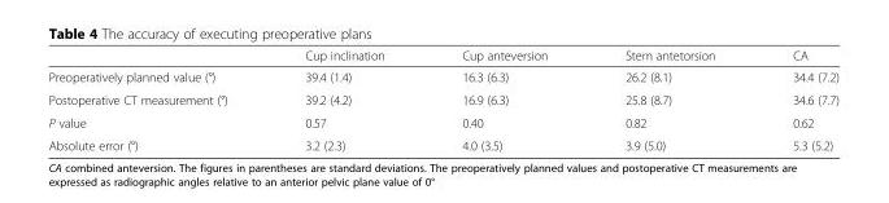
<table><thead><tr><td></td><td>Cup inclination</td><td>Cup anteversion</td><td>Stem antetorsion</td><td>CA</td></tr></thead><tbody><tr><td>Preoperatively planned value (°)</td><td>39.4 (1.4)</td><td>16.3 (6.3)</td><td>26.2 (8.1)</td><td>34.4 (7.2)</td></tr><tr><td>Postoperative CT measurement (°)</td><td>39.2 (4.2)</td><td>16.9 (6.3)</td><td>25.8 (8.7)</td><td>34.6 (7.7)</td></tr><tr><td>P value</td><td>0.57</td><td>0.40</td><td>0.82</td><td>0.62</td></tr><tr><td>Absolute error (°)</td><td>3.2 (2.3)</td><td>4.0 (3.5)</td><td>3.9 (5.0)</td><td>5.3 (5.2)</td></tr></tbody></table>